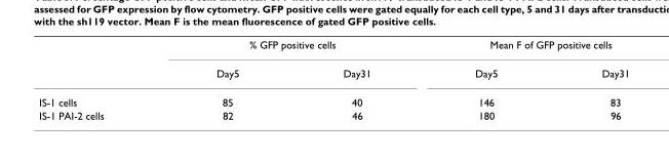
<table><thead><tr><td rowspan="2"></td><td colspan="2">% GFP positive cells</td><td colspan="2">Mean F of GFP positive cells</td></tr><tr><td>Day5</td><td>Day31</td><td>Day5</td><td>Day31</td></tr></thead><tbody><tr><td>IS-1 cells</td><td>85</td><td>40</td><td>146</td><td>83</td></tr><tr><td>IS-1 PAI-2 cells</td><td>82</td><td>46</td><td>180</td><td>96</td></tr></tbody></table>